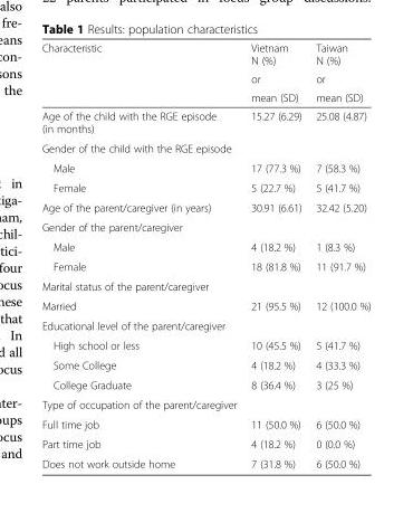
<table><thead><tr><td rowspan="3">Characteristic</td><td rowspan="3">Vietnam N (%) or mean (SD)</td><td rowspan="3">Taiwan N (%) or mean (SD)</td></tr><tr></tr><tr></tr></thead><tbody><tr><td>Age of the child with the RGE episode (in months)</td><td>15.27 (6.29)</td><td>25.08 (4.87)</td></tr><tr><td colspan="3">Gender of the child with the RGE episode</td></tr><tr><td>Male</td><td>17 (77.3 %)</td><td>7 (58.3 %)</td></tr><tr><td>Female</td><td>5 (22.7 %)</td><td>5 (41.7 %)</td></tr><tr><td>Age of the parent/caregiver (in years)</td><td>30.91 (6.61)</td><td>32.42 (5.20)</td></tr><tr><td colspan="3">Gender of the parent/caregiver</td></tr><tr><td>Male</td><td>4 (18.2 %)</td><td>1 (8.3 %)</td></tr><tr><td>Female</td><td>18 (81.8 %)</td><td>11 (91.7 %)</td></tr><tr><td colspan="3">Marital status of the parent/caregiver</td></tr><tr><td>Married</td><td>21 (95.5 %)</td><td>12 (100.0 %)</td></tr><tr><td colspan="3">Educational level of the parent/caregiver</td></tr><tr><td>High school or less</td><td>10 (45.5 %)</td><td>5 (41.7 %)</td></tr><tr><td>Some College</td><td>4 (18.2 %)</td><td>4 (33.3 %)</td></tr><tr><td>College Graduate</td><td>8 (36.4 %)</td><td>3 (25 %)</td></tr><tr><td colspan="3">Type of occupation of the parent/caregiver</td></tr><tr><td>Full time job</td><td>11 (50.0 %)</td><td>6 (50.0 %)</td></tr><tr><td>Part time job</td><td>4 (18.2 %)</td><td>0 (0.0 %)</td></tr><tr><td>Does not work outside home</td><td>7 (31.8 %)</td><td>6 (50.0 %)</td></tr></tbody></table>